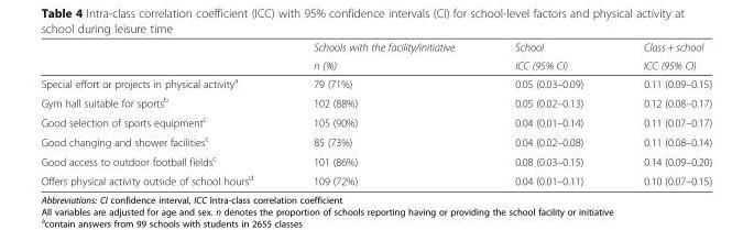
<table><thead><tr><td rowspan="2"></td><td rowspan="2">Schools with the facility/initiative n (%)</td><td rowspan="2">School ICC (95% CI)</td><td rowspan="2">Class + school ICC (95% CI)</td></tr><tr></tr></thead><tbody><tr><td>Special effort or projects in physical activity<sup>a</sup></td><td>79 (71%)</td><td>0.05 (0.03–0.09)</td><td>0.11 (0.09–0.15)</td></tr><tr><td>Gym hall suitable for sports<sup>b</sup></td><td>102 (88%)</td><td>0.05 (0.02–0.13)</td><td>0.12 (0.08–0.17)</td></tr><tr><td>Good selection of sports equipment<sup>c</sup></td><td>105 (90%)</td><td>0.04 (0.01–0.14)</td><td>0.11 (0.07–0.17)</td></tr><tr><td>Good changing and shower facilities<sup>c</sup></td><td>85 (73%)</td><td>0.04 (0.02–0.08)</td><td>0.11 (0.08–0.14)</td></tr><tr><td>Good access to outdoor football fields<sup>c</sup></td><td>101 (86%)</td><td>0.08 (0.03–0.15)</td><td>0.14 (0.09–0.20)</td></tr><tr><td>Offers physical activity outside of school hours<sup>d</sup></td><td>109 (72%)</td><td>0.04 (0.01–0.11)</td><td>0.10 (0.07–0.15)</td></tr></tbody></table>